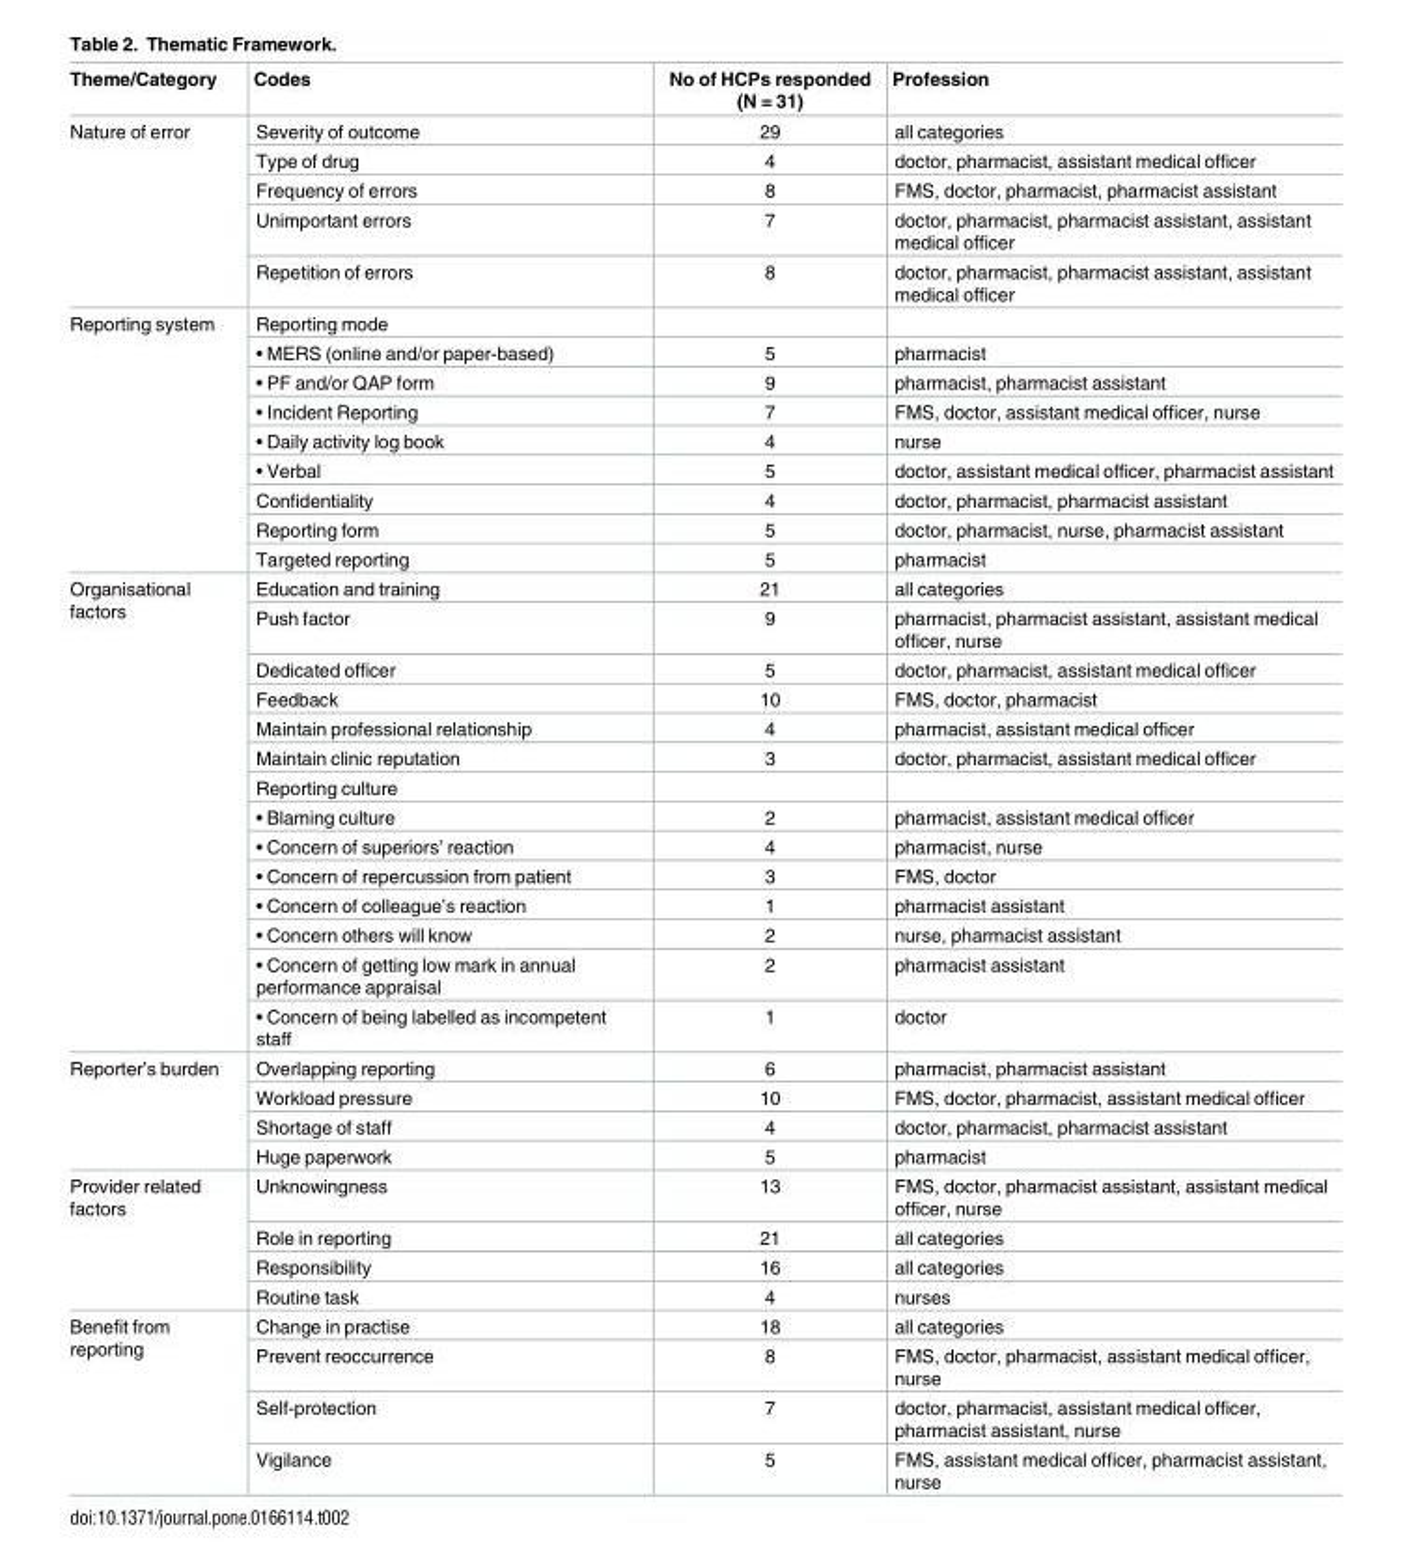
<table><thead><tr><td>Theme/Category</td><td>Codes</td><td>No of HCPs responded (N = 31)</td><td>Profession</td></tr></thead><tbody><tr><td rowspan="5">Nature of error</td><td>Severity of outcome</td><td>29</td><td>all categories</td></tr><tr><td>Type of drug</td><td>4</td><td>doctor, pharmacist, assistant medical officer</td></tr><tr><td>Frequency of errors</td><td>8</td><td>FMS, doctor, pharmacist, pharmacist assistant</td></tr><tr><td>Unimportant errors</td><td>7</td><td>doctor, pharmacist, pharmacist assistant, assistant medical officer</td></tr><tr><td>Repetition of errors</td><td>8</td><td>doctor, pharmacist, pharmacist assistant, assistant medical officer</td></tr><tr><td rowspan="9">Reporting system</td><td>Reporting mode</td><td></td><td></td></tr><tr><td>• MERS (online and/or paper-based)</td><td>5</td><td>pharmacist</td></tr><tr><td>• PF and/or QAP form</td><td>9</td><td>pharmacist, pharmacist assistant</td></tr><tr><td>• Incident Reporting</td><td>7</td><td>FMS, doctor, assistant medical officer, nurse</td></tr><tr><td>• Daily activity log book</td><td>4</td><td>nurse</td></tr><tr><td>• Verbal</td><td>5</td><td>doctor, assistant medical officer, pharmacist assistant</td></tr><tr><td>Confidentiality</td><td>4</td><td>doctor, pharmacist, pharmacist assistant</td></tr><tr><td>Reporting form</td><td>5</td><td>doctor, pharmacist, nurse, pharmacist assistant</td></tr><tr><td>Targeted reporting</td><td>5</td><td>pharmacist</td></tr><tr><td rowspan="14">Organisational factors</td><td>Education and training</td><td>21</td><td>all categories</td></tr><tr><td>Push factor</td><td>9</td><td>pharmacist, pharmacist assistant, assistant medical officer, nurse</td></tr><tr><td>Dedicated officer</td><td>5</td><td>doctor, pharmacist, assistant medical officer</td></tr><tr><td>Feedback</td><td>10</td><td>FMS, doctor, pharmacist</td></tr><tr><td>Maintain professional relationship</td><td>4</td><td>pharmacist, assistant medical officer</td></tr><tr><td>Maintain clinic reputation</td><td>3</td><td>doctor, pharmacist, assistant medical officer</td></tr><tr><td>Reporting culture</td><td></td><td></td></tr><tr><td>• Blaming culture</td><td>2</td><td>pharmacist, assistant medical officer</td></tr><tr><td>• Concern of superiors’ reaction</td><td>4</td><td>pharmacist, nurse</td></tr><tr><td>• Concern of repercussion from patient</td><td>3</td><td>FMS, doctor</td></tr><tr><td>• Concern of colleague’s reaction</td><td>1</td><td>pharmacist assistant</td></tr><tr><td>• Concern others will know</td><td>2</td><td>nurse, pharmacist assistant</td></tr><tr><td>• Concern of getting low mark in annual performance appraisal</td><td>2</td><td>pharmacist assistant</td></tr><tr><td>• Concern of being labelled as incompetent staff</td><td>1</td><td>doctor</td></tr><tr><td rowspan="4">Reporter’s burden</td><td>Overlapping reporting</td><td>6</td><td>pharmacist, pharmacist assistant</td></tr><tr><td>Workload pressure</td><td>10</td><td>FMS, doctor, pharmacist, assistant medical officer</td></tr><tr><td>Shortage of staff</td><td>4</td><td>doctor, pharmacist, pharmacist assistant</td></tr><tr><td>Huge paperwork</td><td>5</td><td>pharmacist</td></tr><tr><td rowspan="4">Provider related factors</td><td>Unknowingness</td><td>13</td><td>FMS, doctor, pharmacist assistant, assistant medical officer, nurse</td></tr><tr><td>Role in reporting</td><td>21</td><td>all categories</td></tr><tr><td>Responsibility</td><td>16</td><td>all categories</td></tr><tr><td>Routine task</td><td>4</td><td>nurses</td></tr><tr><td rowspan="4">Benefit from reporting</td><td>Change in practise</td><td>18</td><td>all categories</td></tr><tr><td>Prevent reoccurrence</td><td>8</td><td>FMS, doctor, pharmacist, assistant medical officer, nurse</td></tr><tr><td>Self-protection</td><td>7</td><td>doctor, pharmacist, assistant medical officer, pharmacist assistant, nurse</td></tr><tr><td>Vigilance</td><td>5</td><td>FMS, assistant medical officer, pharmacist assistant, nurse</td></tr></tbody></table>